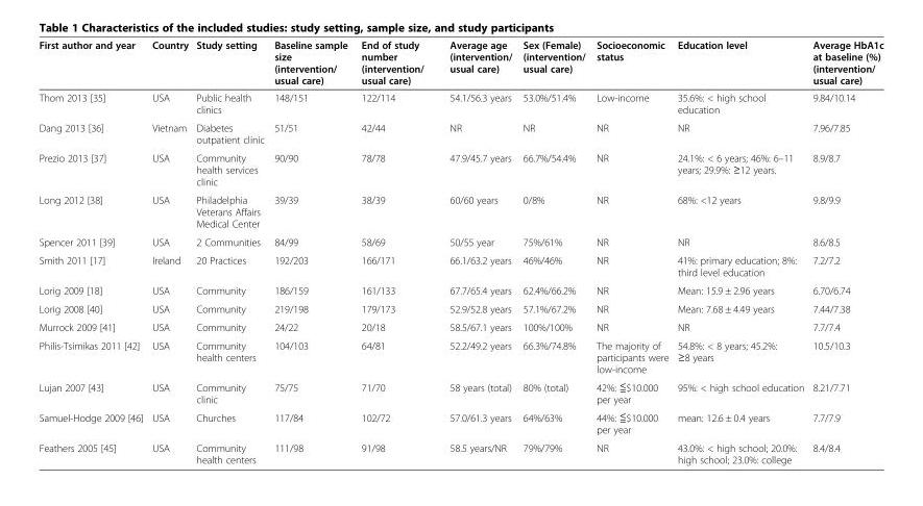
<table><thead><tr><td>First author and year</td><td>Country</td><td>Study setting</td><td>Baseline sample size (intervention/ usual care)</td><td>End of study number (intervention/ usual care)</td><td>Average age (intervention/ usual care)</td><td>Sex (Female) (intervention/ usual care)</td><td>Socioeconomic status</td><td>Education level</td><td>Average HbA1c at baseline (%) (intervention/ usual care)</td></tr></thead><tbody><tr><td>Thom 2013 [35]</td><td>USA</td><td>Public health clinics</td><td>148/151</td><td>122/114</td><td>54.1/56.3 years</td><td>53.0%/51.4%</td><td>Low-income</td><td>35.6%: &lt; high school education</td><td>9.84/10.14</td></tr><tr><td>Dang 2013 [36]</td><td>Vietnam</td><td>Diabetes outpatient clinic</td><td>51/51</td><td>42/44</td><td>NR</td><td>NR</td><td>NR</td><td>NR</td><td>7.96/7.85</td></tr><tr><td>Prezio 2013 [37]</td><td>USA</td><td>Community health services clinic</td><td>90/90</td><td>78/78</td><td>47.9/45.7 years</td><td>66.7%/54.4%</td><td>NR</td><td>24.1%: &lt; 6 years; 46%: 6–11 years; 29.9%: ≥12 years.</td><td>8.9/8.7</td></tr><tr><td>Long 2012 [38]</td><td>USA</td><td>Philadelphia Veterans Affairs Medical Center</td><td>39/39</td><td>38/39</td><td>60/60 years</td><td>0/8%</td><td>NR</td><td>68%: &lt;12 years</td><td>9.8/9.9</td></tr><tr><td>Spencer 2011 [39]</td><td>USA</td><td>2 Communities</td><td>84/99</td><td>58/69</td><td>50/55 year</td><td>75%/61%</td><td>NR</td><td>NR</td><td>8.6/8.5</td></tr><tr><td>Smith 2011 [17]</td><td>Ireland</td><td>20 Practices</td><td>192/203</td><td>166/171</td><td>66.1/63.2 years</td><td>46%/46%</td><td>NR</td><td>41%: primary education; 8%: third level education</td><td>7.2/7.2</td></tr><tr><td>Lorig 2009 [18]</td><td>USA</td><td>Community</td><td>186/159</td><td>161/133</td><td>67.7/65.4 years</td><td>62.4%/66.2%</td><td>NR</td><td>Mean: 15.9 ± 2.96 years</td><td>6.70/6.74</td></tr><tr><td>Lorig 2008 [40]</td><td>USA</td><td>Community</td><td>219/198</td><td>179/173</td><td>52.9/52.8 years</td><td>57.1%/67.2%</td><td>NR</td><td>Mean: 7.68 ± 4.49 years</td><td>7.44/7.38</td></tr><tr><td>Murrock 2009 [41]</td><td>USA</td><td>Community</td><td>24/22</td><td>20/18</td><td>58.5/67.1 years</td><td>100%/100%</td><td>NR</td><td>NR</td><td>7.7/7.4</td></tr><tr><td>Philis-Tsimikas 2011 [42]</td><td>USA</td><td>Community health centers</td><td>104/103</td><td>64/81</td><td>52.2/49.2 years</td><td>66.3%/74.8%</td><td>The majority of participants were low-income</td><td>54.8%: &lt; 8 years; 45.2%: ≥8 years</td><td>10.5/10.3</td></tr><tr><td>Lujan 2007 [43]</td><td>USA</td><td>Community clinic</td><td>75/75</td><td>71/70</td><td>58 years (total)</td><td>80% (total)</td><td>42%: ≦$10.000 per year</td><td>95%: &lt; high school education</td><td>8.21/7.71</td></tr><tr><td>Samuel-Hodge 2009 [46]</td><td>USA</td><td>Churches</td><td>117/84</td><td>102/72</td><td>57.0/61.3 years</td><td>64%/63%</td><td>44%: ≦$10.000 per year</td><td>mean: 12.6 ± 0.4 years</td><td>7.7/7.9</td></tr><tr><td>Feathers 2005 [45]</td><td>USA</td><td>Community health centers</td><td>111/98</td><td>91/98</td><td>58.5 years/NR</td><td>79%/79%</td><td>NR</td><td>43.0%: &lt; high school; 20.0%: high school; 23.0%: college</td><td>8.4/8.4</td></tr></tbody></table>